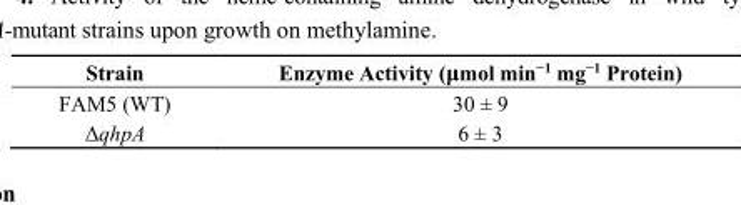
<table><thead><tr><td>Strain</td><td>Enzyme Activity (μmol min<sup>−1</sup> mg<sup>−1</sup> Protein)</td></tr></thead><tbody><tr><td>FAM5 (WT)</td><td>30 ± 9</td></tr><tr><td>ΔqhpA</td><td>6 ± 3</td></tr></tbody></table>